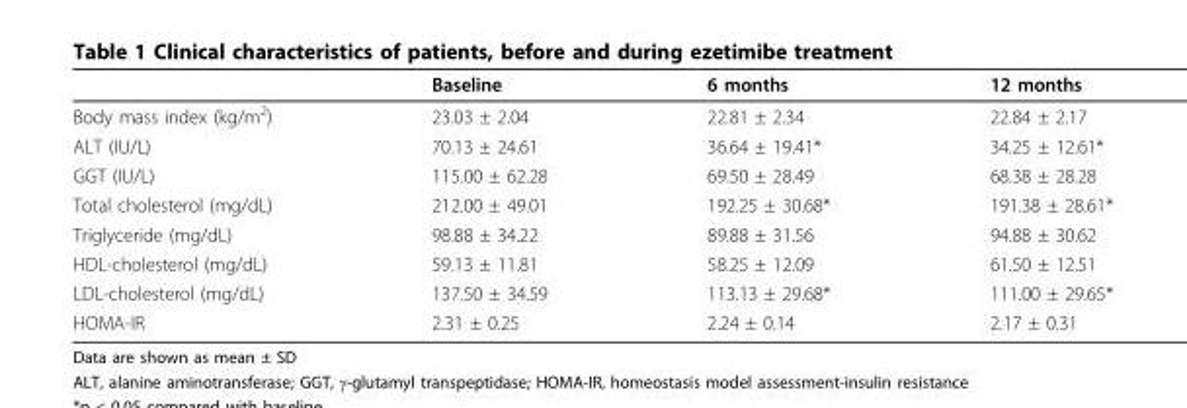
<table><thead><tr><td></td><td>Baseline</td><td>6 months</td><td>12 months</td></tr></thead><tbody><tr><td>Body mass index (kg/m<sup>2</sup>)</td><td>23.03 ± 2.04</td><td>22.81 ± 2.34</td><td>22.84 ± 2.17</td></tr><tr><td>ALT (IU/L)</td><td>70.13 ± 24.61</td><td>36.64 ± 19.41*</td><td>34.25 ± 12.61*</td></tr><tr><td>GGT (IU/L)</td><td>115.00 ± 62.28</td><td>69.50 ± 28.49</td><td>68.38 ± 28.28</td></tr><tr><td>Total cholesterol (mg/dL)</td><td>212.00 ± 49.01</td><td>192.25 ± 30.68*</td><td>191.38 ± 28.61*</td></tr><tr><td>Triglyceride (mg/dL)</td><td>98.88 ± 34.22</td><td>89.88 ± 31.56</td><td>94.88 ± 30.62</td></tr><tr><td>HDL-cholesterol (mg/dL)</td><td>59.13 ± 11.81</td><td>58.25 ± 12.09</td><td>61.50 ± 12.51</td></tr><tr><td>LDL-cholesterol (mg/dL)</td><td>137.50 ± 34.59</td><td>113.13 ± 29.68*</td><td>111.00 ± 29.65*</td></tr><tr><td>HOMA-IR</td><td>2.31 ± 0.25</td><td>2.24 ± 0.14</td><td>2.17 ± 0.31</td></tr></tbody></table>